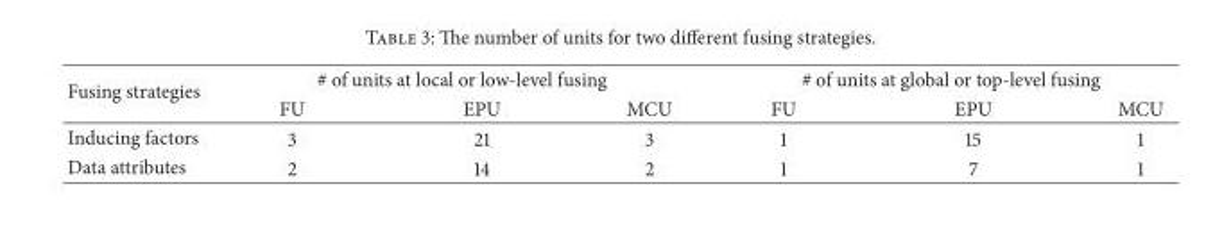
<table><thead><tr><td rowspan="2">Fusing strategies</td><td colspan="3"># of units at local or low-level fusing</td><td colspan="3"># of units at global or top-level fusing</td></tr><tr><td>FU</td><td>EPU</td><td>MCU</td><td>FU</td><td>EPU</td><td>MCU</td></tr></thead><tbody><tr><td>Inducing factors</td><td>3</td><td>21</td><td>3</td><td>1</td><td>15</td><td>1</td></tr><tr><td>Data attributes</td><td>2</td><td>14</td><td>2</td><td>1</td><td>7</td><td>1</td></tr></tbody></table>